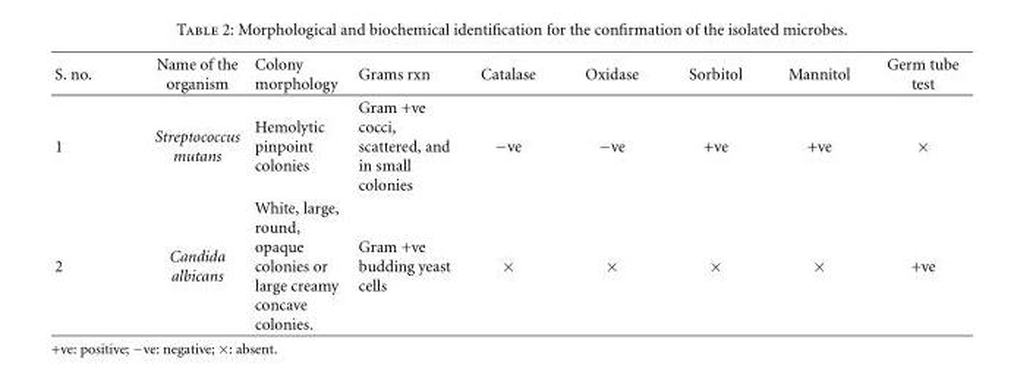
<table><thead><tr><td>S. no.</td><td>Name of the organism</td><td>Colony morphology</td><td>Grams rxn</td><td>Catalase</td><td>Oxidase</td><td>Sorbitol</td><td>Mannitol</td><td>Germ tube test</td></tr></thead><tbody><tr><td>1</td><td>Streptococcus mutans</td><td>Hemolytic pinpoint colonies</td><td>Gram +ve cocci, scattered, and in small colonies</td><td>−ve</td><td>−ve</td><td>+ve</td><td>+ve</td><td>×</td></tr><tr><td>2</td><td>Candida albicans</td><td>White, large, round, opaque colonies or large creamy concave colonies.</td><td>Gram +ve budding yeast cells</td><td>×</td><td>×</td><td>×</td><td>×</td><td>+ve</td></tr></tbody></table>